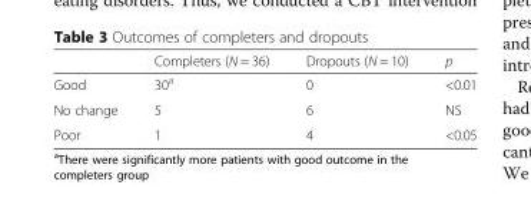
<table><thead><tr><td></td><td>Completers (N = 36)</td><td>Dropouts (N = 10)</td><td>p</td></tr></thead><tbody><tr><td>Good</td><td>30<sup>a</sup></td><td>0</td><td>&lt;0.01</td></tr><tr><td>No change</td><td>5</td><td>6</td><td>NS</td></tr><tr><td>Poor</td><td>1</td><td>4</td><td>&lt;0.05</td></tr></tbody></table>